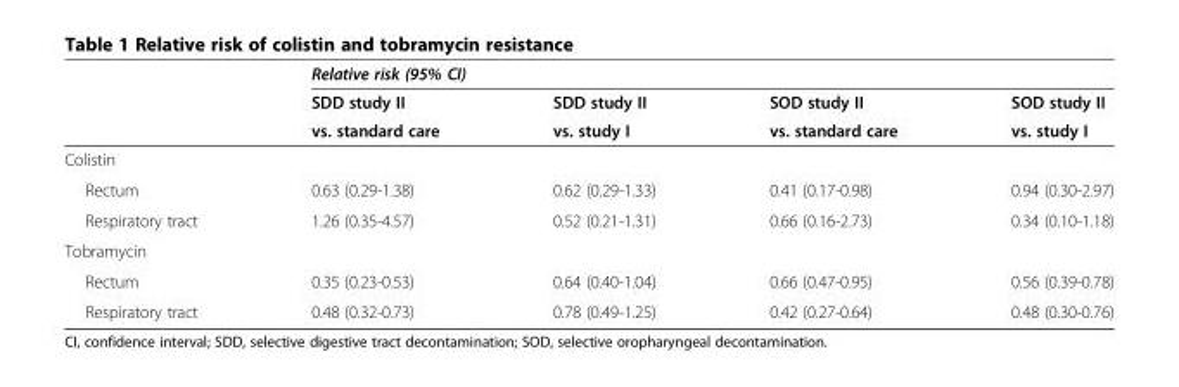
<table><thead><tr><td rowspan="3"></td><td colspan="4">Relative risk (95% CI)</td></tr><tr><td rowspan="2">SDD study II vs. standard care</td><td rowspan="2">SDD study II vs. study I</td><td rowspan="2">SOD study II vs. standard care</td><td rowspan="2">SOD study II vs. study I</td></tr><tr></tr></thead><tbody><tr><td colspan="5">Colistin</td></tr><tr><td>Rectum</td><td>0.63 (0.29-1.38)</td><td>0.62 (0.29-1.33)</td><td>0.41 (0.17-0.98)</td><td>0.94 (0.30-2.97)</td></tr><tr><td>Respiratory tract</td><td>1.26 (0.35-4.57)</td><td>0.52 (0.21-1.31)</td><td>0.66 (0.16-2.73)</td><td>0.34 (0.10-1.18)</td></tr><tr><td colspan="5">Tobramycin</td></tr><tr><td>Rectum</td><td>0.35 (0.23-0.53)</td><td>0.64 (0.40-1.04)</td><td>0.66 (0.47-0.95)</td><td>0.56 (0.39-0.78)</td></tr><tr><td>Respiratory tract</td><td>0.48 (0.32-0.73)</td><td>0.78 (0.49-1.25)</td><td>0.42 (0.27-0.64)</td><td>0.48 (0.30-0.76)</td></tr></tbody></table>